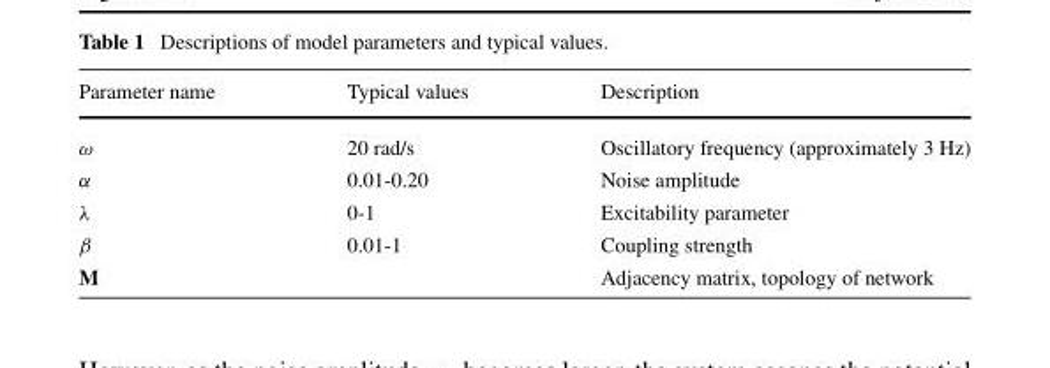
<table><thead><tr><td>Parameter name</td><td>Typical values</td><td>Description</td></tr></thead><tbody><tr><td>ω</td><td>20 rad/s</td><td>Oscillatory frequency (approximately 3 Hz)</td></tr><tr><td>α</td><td>0.01-0.20</td><td>Noise amplitude</td></tr><tr><td>λ</td><td>0-1</td><td>Excitability parameter</td></tr><tr><td>β</td><td>0.01-1</td><td>Coupling strength</td></tr><tr><td>M</td><td></td><td>Adjacency matrix, topology of network</td></tr></tbody></table>